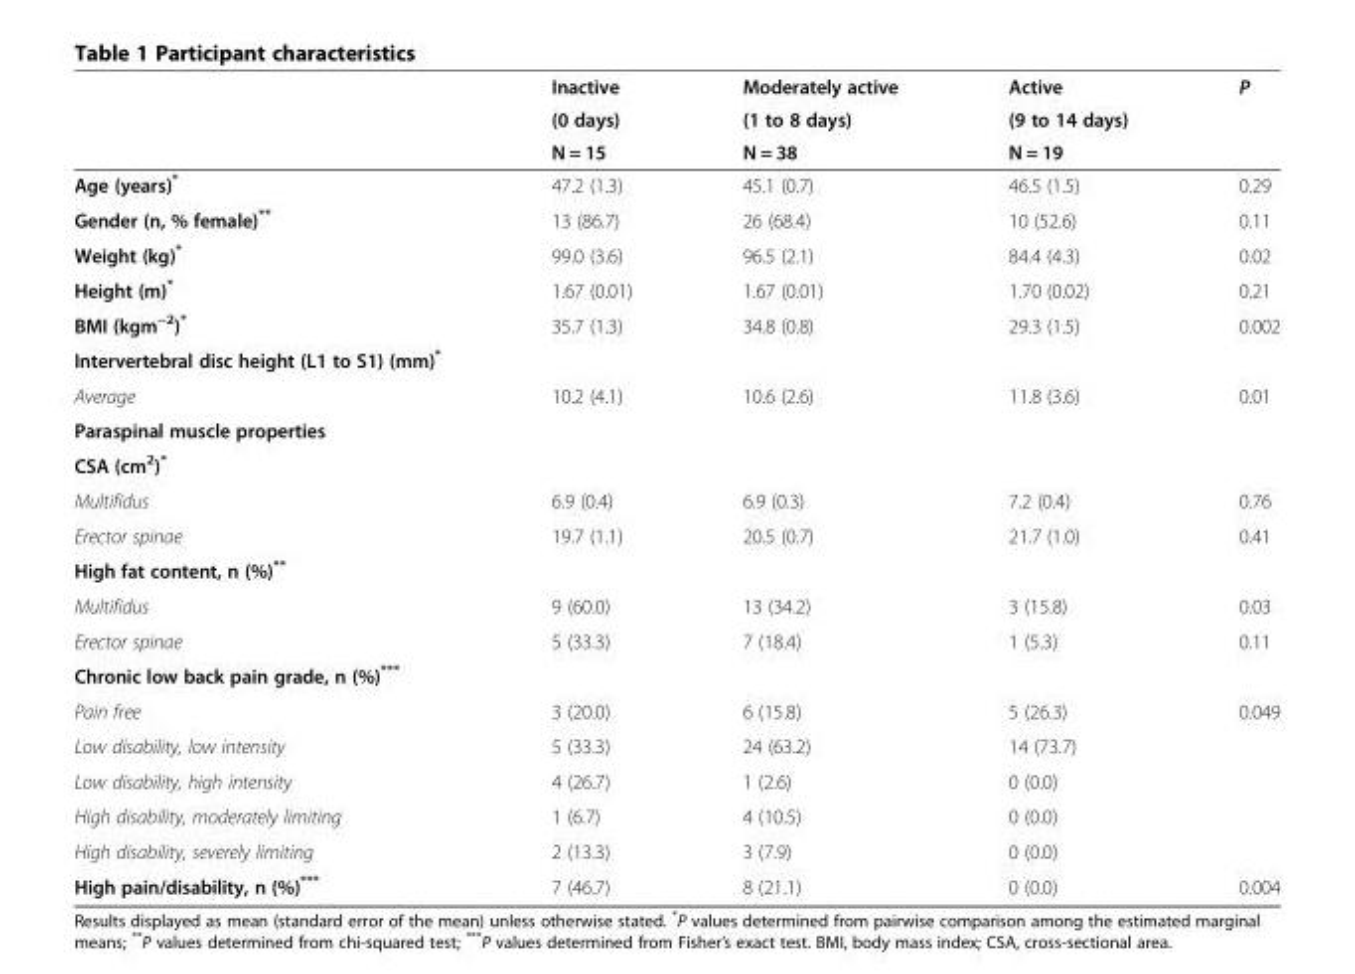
<table><thead><tr><td rowspan="3"></td><td rowspan="3">Inactive (0 days) N = 15</td><td rowspan="3">Moderately active (1 to 8 days) N = 38</td><td rowspan="3">Active (9 to 14 days) N = 19</td><td rowspan="3">P</td></tr><tr></tr><tr></tr></thead><tbody><tr><td>Age (years)*</td><td>47.2 (1.3)</td><td>45.1 (0.7)</td><td>46.5 (1.5)</td><td>0.29</td></tr><tr><td>Gender (n, % female)**</td><td>13 (86.7)</td><td>26 (68.4)</td><td>10 (52.6)</td><td>0.11</td></tr><tr><td>Weight (kg)*</td><td>99.0 (3.6)</td><td>96.5 (2.1)</td><td>84.4 (4.3)</td><td>0.02</td></tr><tr><td>Height (m)*</td><td>1.67 (0.01)</td><td>1.67 (0.01)</td><td>1.70 (0.02)</td><td>0.21</td></tr><tr><td>BMI (kgm<sup>−2</sup>)*</td><td>35.7 (1.3)</td><td>34.8 (0.8)</td><td>29.3 (1.5)</td><td>0.002</td></tr><tr><td colspan="5">Intervertebral disc height (L1 to S1) (mm)*</td></tr><tr><td>Average</td><td>10.2 (4.1)</td><td>10.6 (2.6)</td><td>11.8 (3.6)</td><td>0.01</td></tr><tr><td colspan="5">Paraspinal muscle properties</td></tr><tr><td colspan="5">CSA (cm<sup>2</sup>)*</td></tr><tr><td>Multifidus</td><td>6.9 (0.4)</td><td>6.9 (0.3)</td><td>7.2 (0.4)</td><td>0.76</td></tr><tr><td>Erector spinae</td><td>19.7 (1.1)</td><td>20.5 (0.7)</td><td>21.7 (1.0)</td><td>0.41</td></tr><tr><td colspan="5">High fat content, n (%)**</td></tr><tr><td>Multifidus</td><td>9 (60.0)</td><td>13 (34.2)</td><td>3 (15.8)</td><td>0.03</td></tr><tr><td>Erector spinae</td><td>5 (33.3)</td><td>7 (18.4)</td><td>1 (5.3)</td><td>0.11</td></tr><tr><td colspan="5">Chronic low back pain grade, n (%)***</td></tr><tr><td>Pain free</td><td>3 (20.0)</td><td>6 (15.8)</td><td>5 (26.3)</td><td rowspan="5">0.049</td></tr><tr><td>Low disability, low intensity</td><td>5 (33.3)</td><td>24 (63.2)</td><td>14 (73.7)</td></tr><tr><td>Low disability, high intensity</td><td>4 (26.7)</td><td>1 (2.6)</td><td>0 (0.0)</td></tr><tr><td>High disability, moderately limiting</td><td>1 (6.7)</td><td>4 (10.5)</td><td>0 (0.0)</td></tr><tr><td>High disability, severely limiting</td><td>2 (13.3)</td><td>3 (7.9)</td><td>0 (0.0)</td></tr><tr><td>High pain/disability, n (%)***</td><td>7 (46.7)</td><td>8 (21.1)</td><td>0 (0.0)</td><td>0.004</td></tr></tbody></table>